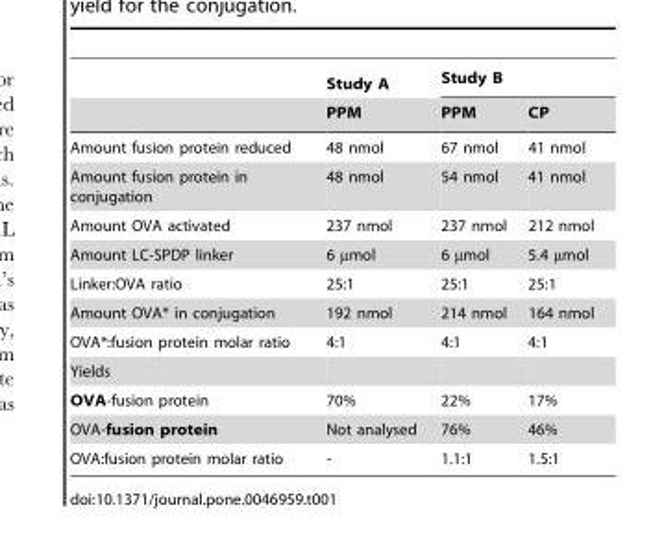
<table><thead><tr><td rowspan="2"></td><td rowspan="2">Study A PPM</td><td colspan="2">Study B</td></tr><tr><td>PPM</td><td>CP</td></tr></thead><tbody><tr><td>Amount fusion protein reduced</td><td>48 nmol</td><td>67 nmol</td><td>41 nmol</td></tr><tr><td>Amount fusion protein in conjugation</td><td>48 nmol</td><td>54 nmol</td><td>41 nmol</td></tr><tr><td>Amount OVA activated</td><td>237 nmol</td><td>237 nmol</td><td>212 nmol</td></tr><tr><td>Amount LC-SPDP linker</td><td>6 µmol</td><td>6 µmol</td><td>5.4 µmol</td></tr><tr><td>Linker:OVA ratio</td><td>25:1</td><td>25:1</td><td>25:1</td></tr><tr><td>Amount OVA* in conjugation</td><td>192 nmol</td><td>214 nmol</td><td>164 nmol</td></tr><tr><td>OVA*:fusion protein molar ratio</td><td>4:1</td><td>4:1</td><td>4:1</td></tr><tr><td colspan="4">Yields</td></tr><tr><td>OVA-fusion protein</td><td>70%</td><td>22%</td><td>17%</td></tr><tr><td>OVA-fusion protein</td><td>Not analysed</td><td>76%</td><td>46%</td></tr><tr><td>OVA:fusion protein molar ratio</td><td>-</td><td>1.1:1</td><td>1.5:1</td></tr></tbody></table>